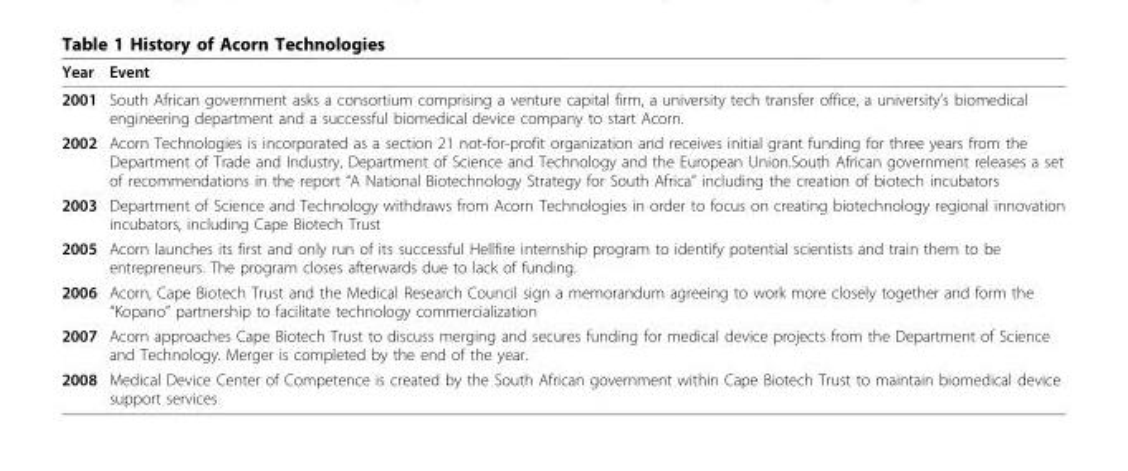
<table><thead><tr><td>Year</td><td>Event</td></tr></thead><tbody><tr><td>2001</td><td>South African government asks a consortium comprising a venture capital firm, a university tech transfer office, a university’s biomedical engineering department and a successful biomedical device company to start Acorn.</td></tr><tr><td>2002</td><td>Acorn Technologies is incorporated as a section 21 not-for-profit organization and receives initial grant funding for three years from the Department of Trade and Industry, Department of Science and Technology and the European Union.South African government releases a set of recommendations in the report “A National Biotechnology Strategy for South Africa” including the creation of biotech incubators</td></tr><tr><td>2003</td><td>Department of Science and Technology withdraws from Acorn Technologies in order to focus on creating biotechnology regional innovation incubators, including Cape Biotech Trust</td></tr><tr><td>2005</td><td>Acorn launches its first and only run of its successful Hellfire internship program to identify potential scientists and train them to be entrepreneurs. The program closes afterwards due to lack of funding.</td></tr><tr><td>2006</td><td>Acorn, Cape Biotech Trust and the Medical Research Council sign a memorandum agreeing to work more closely together and form the “Kopano” partnership to facilitate technology commercialization</td></tr><tr><td>2007</td><td>Acorn approaches Cape Biotech Trust to discuss merging and secures funding for medical device projects from the Department of Science and Technology. Merger is completed by the end of the year.</td></tr><tr><td>2008</td><td>Medical Device Center of Competence is created by the South African government within Cape Biotech Trust to maintain biomedical device support services</td></tr></tbody></table>